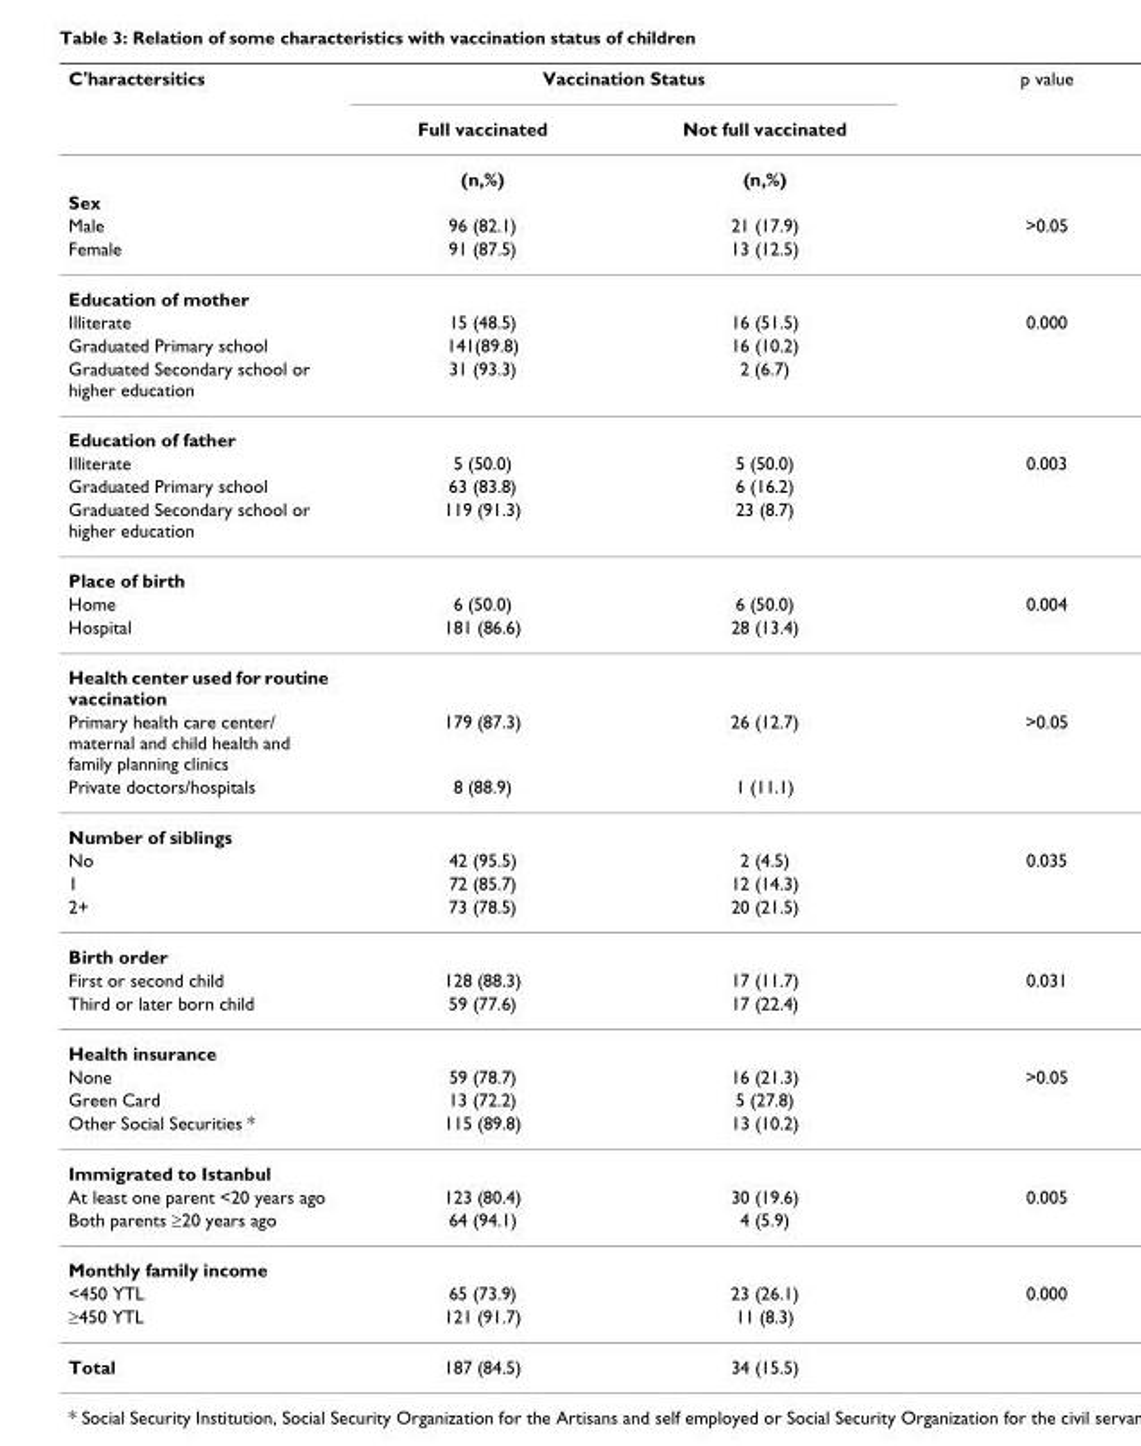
<table><thead><tr><td rowspan="2">C&#x27;haractersitics</td><td colspan="2">Vaccination Status</td><td rowspan="2">p value</td></tr><tr><td>Full vaccinated</td><td>Not full vaccinated</td></tr></thead><tbody><tr><td></td><td>(n,%)</td><td>(n,%)</td><td></td></tr><tr><td colspan="4">Sex</td></tr><tr><td>Male</td><td>96 (82.1)</td><td>21 (17.9)</td><td>&gt;0.05</td></tr><tr><td>Female</td><td>91 (87.5)</td><td>13 (12.5)</td><td></td></tr><tr><td colspan="4">Education of mother</td></tr><tr><td>Illiterate</td><td>15 (48.5)</td><td>16 (51.5)</td><td>0.000</td></tr><tr><td>Graduated Primary school</td><td>141(89.8)</td><td>16 (10.2)</td><td></td></tr><tr><td>Graduated Secondary school or higher education</td><td>31 (93.3)</td><td>2 (6.7)</td><td></td></tr><tr><td colspan="4">Education of father</td></tr><tr><td>Illiterate</td><td>5 (50.0)</td><td>5 (50.0)</td><td>0.003</td></tr><tr><td>Graduated Primary school</td><td>63 (83.8)</td><td>6 (16.2)</td><td></td></tr><tr><td>Graduated Secondary school or higher education</td><td>119 (91.3)</td><td>23 (8.7)</td><td></td></tr><tr><td colspan="4">Place of birth</td></tr><tr><td>Home</td><td>6 (50.0)</td><td>6 (50.0)</td><td>0.004</td></tr><tr><td>Hospital</td><td>181 (86.6)</td><td>28 (13.4)</td><td></td></tr><tr><td colspan="4">Health center used for routine vaccination</td></tr><tr><td>Primary health care center/ maternal and child health and family planning clinics</td><td>179 (87.3)</td><td>26 (12.7)</td><td>&gt;0.05</td></tr><tr><td>Private doctors/hospitals</td><td>8 (88.9)</td><td>1 (11.1)</td><td></td></tr><tr><td colspan="4">Number of siblings</td></tr><tr><td>No</td><td>42 (95.5)</td><td>2 (4.5)</td><td>0.035</td></tr><tr><td>1</td><td>72 (85.7)</td><td>12 (14.3)</td><td></td></tr><tr><td>2+</td><td>73 (78.5)</td><td>20 (21.5)</td><td></td></tr><tr><td colspan="4">Birth order</td></tr><tr><td>First or second child</td><td>128 (88.3)</td><td>17 (11.7)</td><td>0.031</td></tr><tr><td>Third or later born child</td><td>59 (77.6)</td><td>17 (22.4)</td><td></td></tr><tr><td colspan="4">Health insurance</td></tr><tr><td>None</td><td>59 (78.7)</td><td>16 (21.3)</td><td>&gt;0.05</td></tr><tr><td>Green Card</td><td>13 (72.2)</td><td>5 (27.8)</td><td></td></tr><tr><td>Other Social Securities *</td><td>115 (89.8)</td><td>13 (10.2)</td><td></td></tr><tr><td colspan="4">Immigrated to Istanbul</td></tr><tr><td>At least one parent &lt;20 years ago</td><td>123 (80.4)</td><td>30 (19.6)</td><td>0.005</td></tr><tr><td>Both parents ≥20 years ago</td><td>64 (94.1)</td><td>4 (5.9)</td><td></td></tr><tr><td colspan="4">Monthly family income</td></tr><tr><td>&lt;450 YTL</td><td>65 (73.9)</td><td>23 (26.1)</td><td>0.000</td></tr><tr><td>≥450 YTL</td><td>121 (91.7)</td><td>11 (8.3)</td><td></td></tr><tr><td>Total</td><td>187 (84.5)</td><td>34 (15.5)</td><td></td></tr></tbody></table>